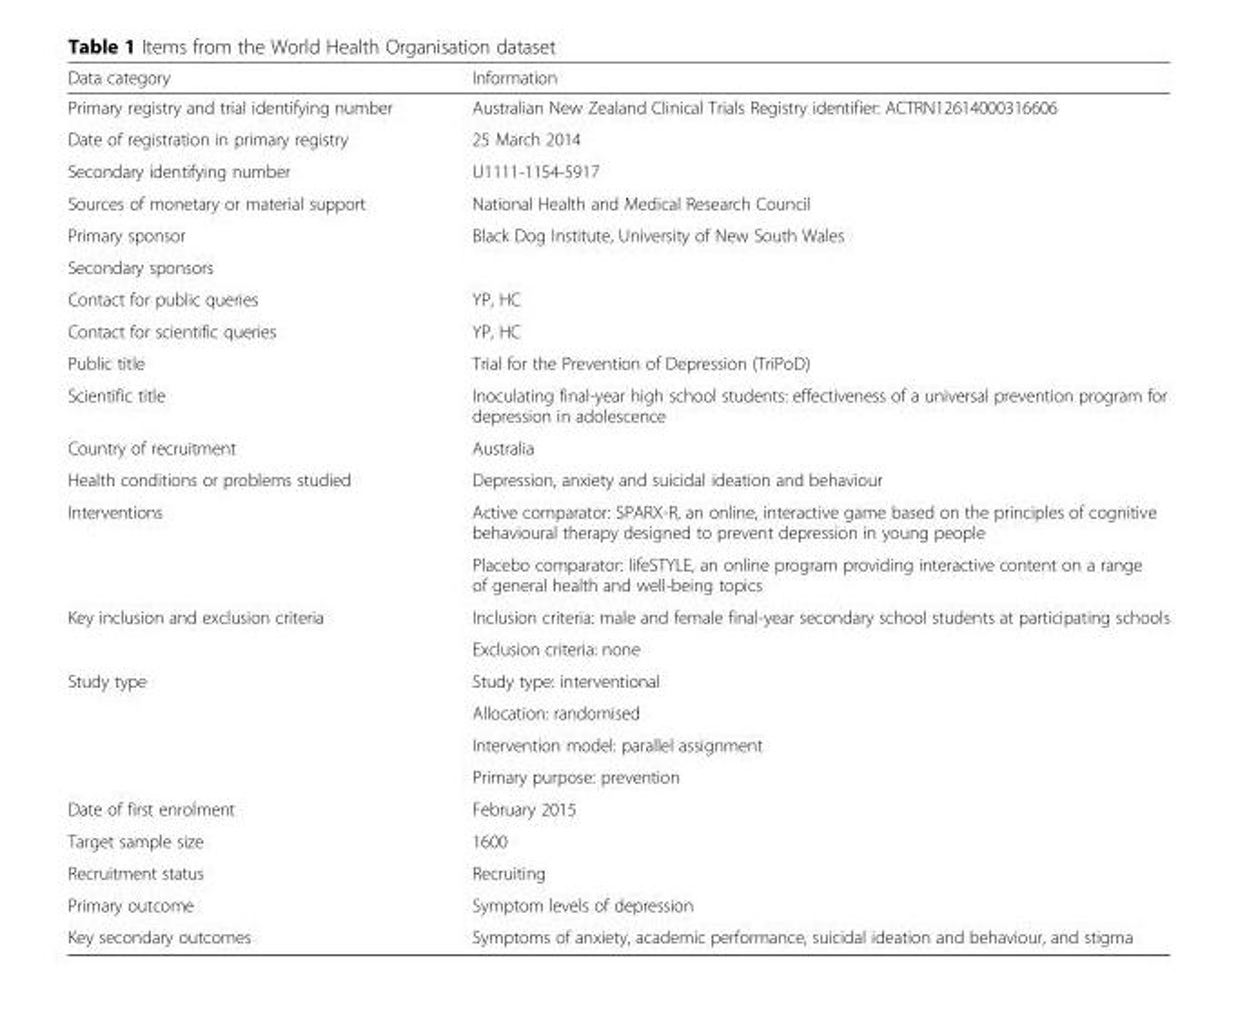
<table><thead><tr><td>Data category</td><td>Information</td></tr></thead><tbody><tr><td>Primary registry and trial identifying number</td><td>Australian New Zealand Clinical Trials Registry identifier: ACTRN12614000316606</td></tr><tr><td>Date of registration in primary registry</td><td>25 March 2014</td></tr><tr><td>Secondary identifying number</td><td>U1111-1154-5917</td></tr><tr><td>Sources of monetary or material support</td><td>National Health and Medical Research Council</td></tr><tr><td>Primary sponsor</td><td>Black Dog Institute, University of New South Wales</td></tr><tr><td colspan="2">Secondary sponsors</td></tr><tr><td>Contact for public queries</td><td>YP, HC</td></tr><tr><td>Contact for scientific queries</td><td>YP, HC</td></tr><tr><td>Public title</td><td>Trial for the Prevention of Depression (TriPoD)</td></tr><tr><td>Scientific title</td><td>Inoculating final-year high school students: effectiveness of a universal prevention program for depression in adolescence</td></tr><tr><td>Country of recruitment</td><td>Australia</td></tr><tr><td>Health conditions or problems studied</td><td>Depression, anxiety and suicidal ideation and behaviour</td></tr><tr><td rowspan="2">Interventions</td><td>Active comparator: SPARX-R, an online, interactive game based on the principles of cognitive behavioural therapy designed to prevent depression in young people</td></tr><tr><td>Placebo comparator: lifeSTYLE, an online program providing interactive content on a range of general health and well-being topics</td></tr><tr><td rowspan="2">Key inclusion and exclusion criteria</td><td>Inclusion criteria: male and female final-year secondary school students at participating schools</td></tr><tr><td>Exclusion criteria: none</td></tr><tr><td rowspan="4">Study type</td><td>Study type: interventional</td></tr><tr><td>Allocation: randomised</td></tr><tr><td>Intervention model: parallel assignment</td></tr><tr><td>Primary purpose: prevention</td></tr><tr><td>Date of first enrolment</td><td>February 2015</td></tr><tr><td>Target sample size</td><td>1600</td></tr><tr><td>Recruitment status</td><td>Recruiting</td></tr><tr><td>Primary outcome</td><td>Symptom levels of depression</td></tr><tr><td>Key secondary outcomes</td><td>Symptoms of anxiety, academic performance, suicidal ideation and behaviour, and stigma</td></tr></tbody></table>